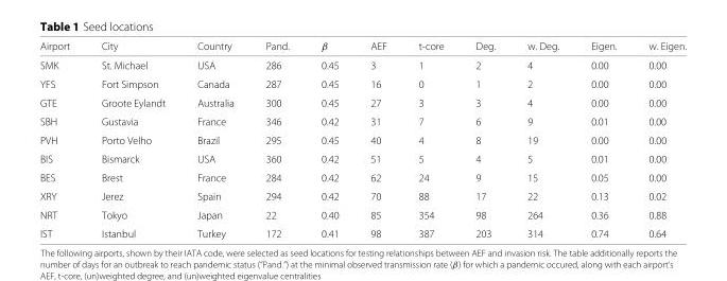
<table><thead><tr><td>Airport</td><td>City</td><td>Country</td><td>Pand.</td><td>β</td><td>AEF</td><td>t-core</td><td>Deg.</td><td>w. Deg.</td><td>Eigen.</td><td>w. Eigen.</td></tr></thead><tbody><tr><td>SMK</td><td>St. Michael</td><td>USA</td><td>286</td><td>0.45</td><td>3</td><td>1</td><td>2</td><td>4</td><td>0.00</td><td>0.00</td></tr><tr><td>YFS</td><td>Fort Simpson</td><td>Canada</td><td>287</td><td>0.45</td><td>16</td><td>0</td><td>1</td><td>2</td><td>0.00</td><td>0.00</td></tr><tr><td>GTE</td><td>Groote Eylandt</td><td>Australia</td><td>300</td><td>0.45</td><td>27</td><td>3</td><td>3</td><td>4</td><td>0.00</td><td>0.00</td></tr><tr><td>SBH</td><td>Gustavia</td><td>France</td><td>346</td><td>0.42</td><td>31</td><td>7</td><td>6</td><td>9</td><td>0.01</td><td>0.00</td></tr><tr><td>PVH</td><td>Porto Velho</td><td>Brazil</td><td>295</td><td>0.45</td><td>40</td><td>4</td><td>8</td><td>19</td><td>0.00</td><td>0.00</td></tr><tr><td>BIS</td><td>Bismarck</td><td>USA</td><td>360</td><td>0.42</td><td>51</td><td>5</td><td>4</td><td>5</td><td>0.01</td><td>0.00</td></tr><tr><td>BES</td><td>Brest</td><td>France</td><td>284</td><td>0.42</td><td>62</td><td>24</td><td>9</td><td>15</td><td>0.05</td><td>0.00</td></tr><tr><td>XRY</td><td>Jerez</td><td>Spain</td><td>294</td><td>0.42</td><td>70</td><td>88</td><td>17</td><td>22</td><td>0.13</td><td>0.02</td></tr><tr><td>NRT</td><td>Tokyo</td><td>Japan</td><td>22</td><td>0.40</td><td>85</td><td>354</td><td>98</td><td>264</td><td>0.36</td><td>0.88</td></tr><tr><td>IST</td><td>Istanbul</td><td>Turkey</td><td>172</td><td>0.41</td><td>98</td><td>387</td><td>203</td><td>314</td><td>0.74</td><td>0.64</td></tr></tbody></table>